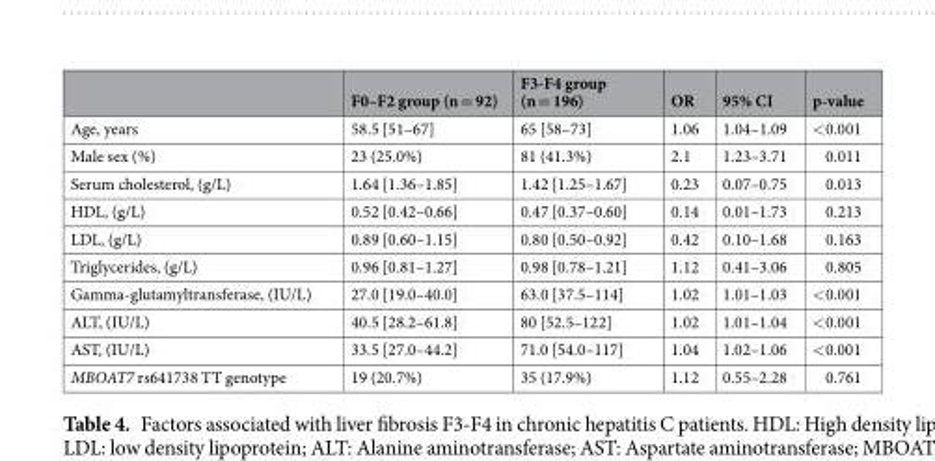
<table><thead><tr><td></td><td>F0–F2 group (n = 92)</td><td>F3-F4 group (n = 196)</td><td>OR</td><td>95% CI</td><td>p-value</td></tr></thead><tbody><tr><td>Age, years</td><td>58.5 [51–67]</td><td>65 [58–73]</td><td>1.06</td><td>1.04–1.09</td><td>&lt;0.001</td></tr><tr><td>Male sex (%)</td><td>23 (25.0%)</td><td>81 (41.3%)</td><td>2.1</td><td>1.23–3.71</td><td>0.011</td></tr><tr><td>Serum cholesterol, (g/L)</td><td>1.64 [1.36–1.85]</td><td>1.42 [1.25–1.67]</td><td>0.23</td><td>0.07–0.75</td><td>0.013</td></tr><tr><td>HDL, (g/L)</td><td>0.52 [0.42–0.66]</td><td>0.47 [0.37–0.60]</td><td>0.14</td><td>0.01–1.73</td><td>0.213</td></tr><tr><td>LDL, (g/L)</td><td>0.89 [0.60–1.15]</td><td>0.80 [0.50–0.92]</td><td>0.42</td><td>0.10–1.68</td><td>0.163</td></tr><tr><td>Triglycerides, (g/L)</td><td>0.96 [0.81–1.27]</td><td>0.98 [0.78–1.21]</td><td>1.12</td><td>0.41–3.06</td><td>0.805</td></tr><tr><td>Gamma-glutamyltransferase, (IU/L)</td><td>27.0 [19.0–40.0]</td><td>63.0 [37.5–114]</td><td>1.02</td><td>1.01–1.03</td><td>&lt;0.001</td></tr><tr><td>ALT, (IU/L)</td><td>40.5 [28.2–61.8]</td><td>80 [52.5–122]</td><td>1.02</td><td>1.01–1.04</td><td>&lt;0.001</td></tr><tr><td>AST, (IU/L)</td><td>33.5 [27.0–44.2]</td><td>71.0 [54.0–117]</td><td>1.04</td><td>1.02–1.06</td><td>&lt;0.001</td></tr><tr><td>MBOAT7 rs641738 TT genotype</td><td>19 (20.7%)</td><td>35 (17.9%)</td><td>1.12</td><td>0.55–2.28</td><td>0.761</td></tr></tbody></table>